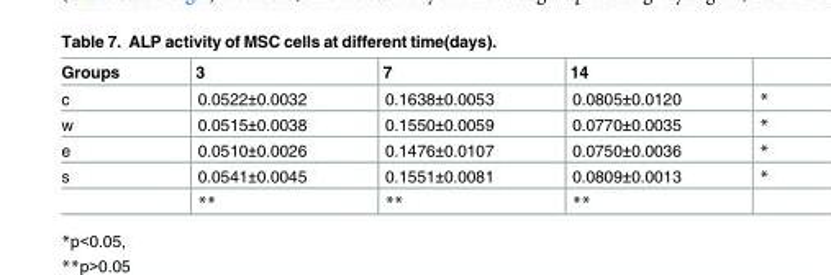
<table><thead><tr><td>Groups</td><td>3</td><td>7</td><td>14</td><td></td></tr></thead><tbody><tr><td>c</td><td>0.0522±0.0032</td><td>0.1638±0.0053</td><td>0.0805±0.0120</td><td>*</td></tr><tr><td>w</td><td>0.0515±0.0038</td><td>0.1550±0.0059</td><td>0.0770±0.0035</td><td>*</td></tr><tr><td>e</td><td>0.0510±0.0026</td><td>0.1476±0.0107</td><td>0.0750±0.0036</td><td>*</td></tr><tr><td rowspan="2">s</td><td>0.0541±0.0045</td><td>0.1551±0.0081</td><td>0.0809±0.0013</td><td>*</td></tr><tr><td>**</td><td>**</td><td>**</td><td></td></tr></tbody></table>